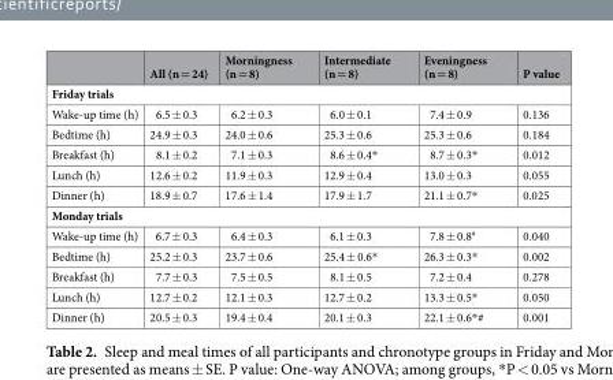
<table><thead><tr><td></td><td>All (n = 24)</td><td>Morningness (n = 8)</td><td>Intermediate (n = 8)</td><td>Eveningness (n = 8)</td><td>P value</td></tr></thead><tbody><tr><td colspan="6">Friday trials</td></tr><tr><td>Wake-up time (h)</td><td>6.5 ± 0.3</td><td>6.2 ± 0.3</td><td>6.0 ± 0.1</td><td>7.4 ± 0.9</td><td>0.136</td></tr><tr><td>Bedtime (h)</td><td>24.9 ± 0.3</td><td>24.0 ± 0.6</td><td>25.3 ± 0.6</td><td>25.3 ± 0.6</td><td>0.184</td></tr><tr><td>Breakfast (h)</td><td>8.1 ± 0.2</td><td>7.1 ± 0.3</td><td>8.6 ± 0.4*</td><td>8.7 ± 0.3*</td><td>0.012</td></tr><tr><td>Lunch (h)</td><td>12.6 ± 0.2</td><td>11.9 ± 0.3</td><td>12.9 ± 0.4</td><td>13.0 ± 0.3</td><td>0.055</td></tr><tr><td>Dinner (h)</td><td>18.9 ± 0.7</td><td>17.6 ± 1.4</td><td>17.9 ± 1.7</td><td>21.1 ± 0.7*</td><td>0.025</td></tr><tr><td colspan="6">Monday trials</td></tr><tr><td>Wake-up time (h)</td><td>6.7 ± 0.3</td><td>6.4 ± 0.3</td><td>6.1 ± 0.3</td><td>7.8 ± 0.8<sup>#</sup></td><td>0.040</td></tr><tr><td>Bedtime (h)</td><td>25.2 ± 0.3</td><td>23.7 ± 0.6</td><td>25.4 ± 0.6*</td><td>26.3 ± 0.3*</td><td>0.002</td></tr><tr><td>Breakfast (h)</td><td>7.7 ± 0.3</td><td>7.5 ± 0.5</td><td>8.1 ± 0.5</td><td>7.2 ± 0.4</td><td>0.278</td></tr><tr><td>Lunch (h)</td><td>12.7 ± 0.2</td><td>12.1 ± 0.3</td><td>12.7 ± 0.2</td><td>13.3 ± 0.5*</td><td>0.050</td></tr><tr><td>Dinner (h)</td><td>20.5 ± 0.3</td><td>19.4 ± 0.4</td><td>20.1 ± 0.3</td><td>22.1 ± 0.6*#</td><td>0.001</td></tr></tbody></table>